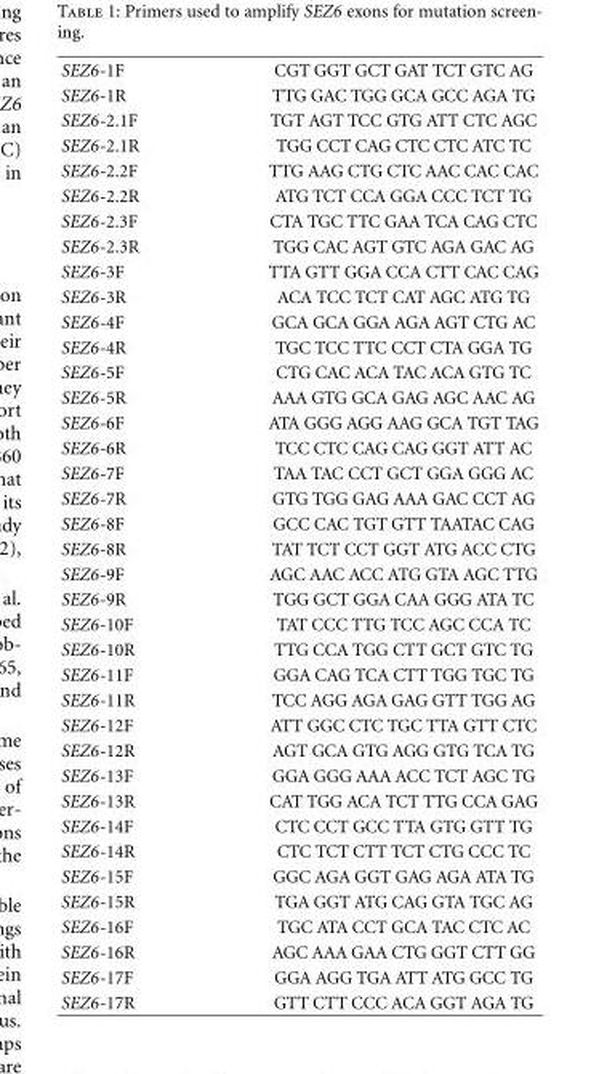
<table><tbody><tr><td>SEZ6-1F</td><td>CGT GGT GCT GAT TCT GTC AG</td></tr><tr><td>SEZ6-1R</td><td>TTG GAC TGG GCA GCC AGA TG</td></tr><tr><td>SEZ6-2.1F</td><td>TGT AGT TCC GTG ATT CTC AGC</td></tr><tr><td>SEZ6-2.1R</td><td>TGG CCT CAG CTC CTC ATC TC</td></tr><tr><td>SEZ6-2.2F</td><td>TTG AAG CTG CTC AAC CAC CAC</td></tr><tr><td>SEZ6-2.2R</td><td>ATG TCT CCA GGA CCC TCT TG</td></tr><tr><td>SEZ6-2.3F</td><td>CTA TGC TTC GAA TCA CAG CTC</td></tr><tr><td>SEZ6-2.3R</td><td>TGG CAC AGT GTC AGA GAC AG</td></tr><tr><td>SEZ6-3F</td><td>TTA GTT GGA CCA CTT CAC CAG</td></tr><tr><td>SEZ6-3R</td><td>ACA TCC TCT CAT AGC ATG TG</td></tr><tr><td>SEZ6-4F</td><td>GCA GCA GGA AGA AGT CTG AC</td></tr><tr><td>SEZ6-4R</td><td>TGC TCC TTC CCT CTA GGA TG</td></tr><tr><td>SEZ6-5F</td><td>CTG CAC ACA TAC ACA GTG TC</td></tr><tr><td>SEZ6-5R</td><td>AAA GTG GCA GAG AGC AAC AG</td></tr><tr><td>SEZ6-6F</td><td>ATA GGG AGG AAG GCA TGT TAG</td></tr><tr><td>SEZ6-6R</td><td>TCC CTC CAG CAG GGT ATT AC</td></tr><tr><td>SEZ6-7F</td><td>TAA TAC CCT GCT GGA GGG AC</td></tr><tr><td>SEZ6-7R</td><td>GTG TGG GAG AAA GAC CCT AG</td></tr><tr><td>SEZ6-8F</td><td>GCC CAC TGT GTT TAATAC CAG</td></tr><tr><td>SEZ6-8R</td><td>TAT TCT CCT GGT ATG ACC CTG</td></tr><tr><td>SEZ6-9F</td><td>AGC AAC ACC ATG GTA AGC TTG</td></tr><tr><td>SEZ6-9R</td><td>TGG GCT GGA CAA GGG ATA TC</td></tr><tr><td>SEZ6-10F</td><td>TAT CCC TTG TCC AGC CCA TC</td></tr><tr><td>SEZ6-10R</td><td>TTG CCA TGG CTT GCT GTC TG</td></tr><tr><td>SEZ6-11F</td><td>GGA CAG TCA CTT TGG TGC TG</td></tr><tr><td>SEZ6-11R</td><td>TCC AGG AGA GAG GTT TGG AG</td></tr><tr><td>SEZ6-12F</td><td>ATT GGC CTC TGC TTA GTT CTC</td></tr><tr><td>SEZ6-12R</td><td>AGT GCA GTG AGG GTG TCA TG</td></tr><tr><td>SEZ6-13F</td><td>GGA GGG AAA ACC TCT AGC TG</td></tr><tr><td>SEZ6-13R</td><td>CAT TGG ACA TCT TTG CCA GAG</td></tr><tr><td>SEZ6-14F</td><td>CTC CCT GCC TTA GTG GTT TG</td></tr><tr><td>SEZ6-14R</td><td>CTC TCT CTT TCT CTG CCC TC</td></tr><tr><td>SEZ6-15F</td><td>GGC AGA GGT GAG AGA ATA TG</td></tr><tr><td>SEZ6-15R</td><td>TGA GGT ATG CAG GTA TGC AG</td></tr><tr><td>SEZ6-16F</td><td>TGC ATA CCT GCA TAC CTC AC</td></tr><tr><td>SEZ6-16R</td><td>AGC AAA GAA CTG GGT CTT GG</td></tr><tr><td>SEZ6-17F</td><td>GGA AGG TGA ATT ATG GCC TG</td></tr><tr><td>SEZ6-17R</td><td>GTT CTT CCC ACA GGT AGA TG</td></tr></tbody></table>